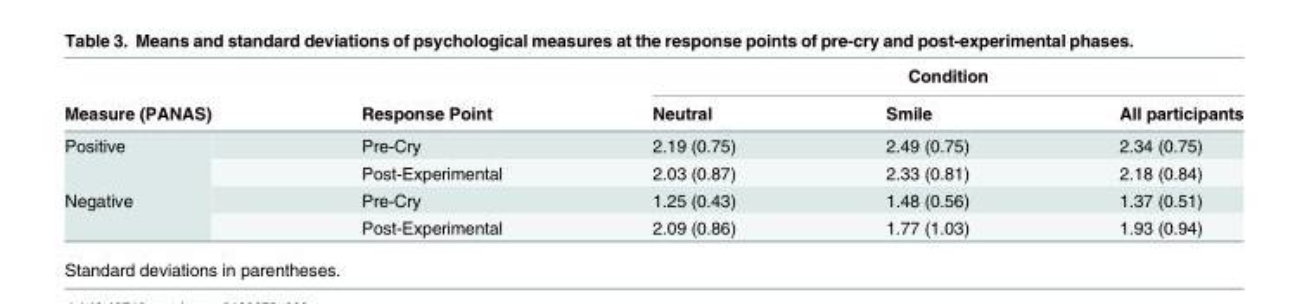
<table><thead><tr><td rowspan="2">Measure (PANAS)</td><td rowspan="2">Response Point</td><td colspan="3">Condition</td></tr><tr><td>Neutral</td><td>Smile</td><td>All participants</td></tr></thead><tbody><tr><td rowspan="2">Positive</td><td>Pre-Cry</td><td>2.19 (0.75)</td><td>2.49 (0.75)</td><td>2.34 (0.75)</td></tr><tr><td>Post-Experimental</td><td>2.03 (0.87)</td><td>2.33 (0.81)</td><td>2.18 (0.84)</td></tr><tr><td rowspan="2">Negative</td><td>Pre-Cry</td><td>1.25 (0.43)</td><td>1.48 (0.56)</td><td>1.37 (0.51)</td></tr><tr><td>Post-Experimental</td><td>2.09 (0.86)</td><td>1.77 (1.03)</td><td>1.93 (0.94)</td></tr></tbody></table>